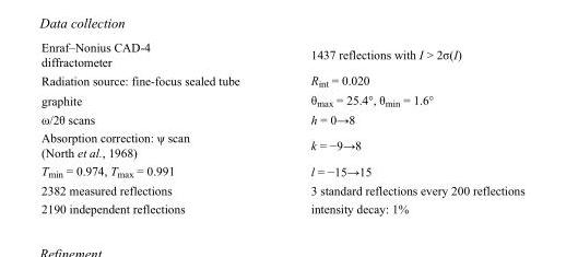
<table><tbody><tr><td>Enraf–Nonius CAD-4 diffractometer</td><td>1437 reflections with I &gt; 2σ(I)</td></tr><tr><td>Radiation source: fine-focus sealed tube</td><td>R<sub>int</sub> = 0.020</td></tr><tr><td>graphite</td><td>θ<sub>max</sub> = 25.4°, θ<sub>min</sub> = 1.6°</td></tr><tr><td>ω/2θ scans</td><td>h = 0→8</td></tr><tr><td>Absorption correction: ψ scan (North et al., 1968)</td><td>k = −9→8</td></tr><tr><td>T<sub>min</sub> = 0.974, T<sub>max</sub> = 0.991</td><td>l = −15→15</td></tr><tr><td>2382 measured reflections</td><td>3 standard reflections every 200 reflections</td></tr><tr><td>2190 independent reflections</td><td>intensity decay: 1%</td></tr></tbody></table>